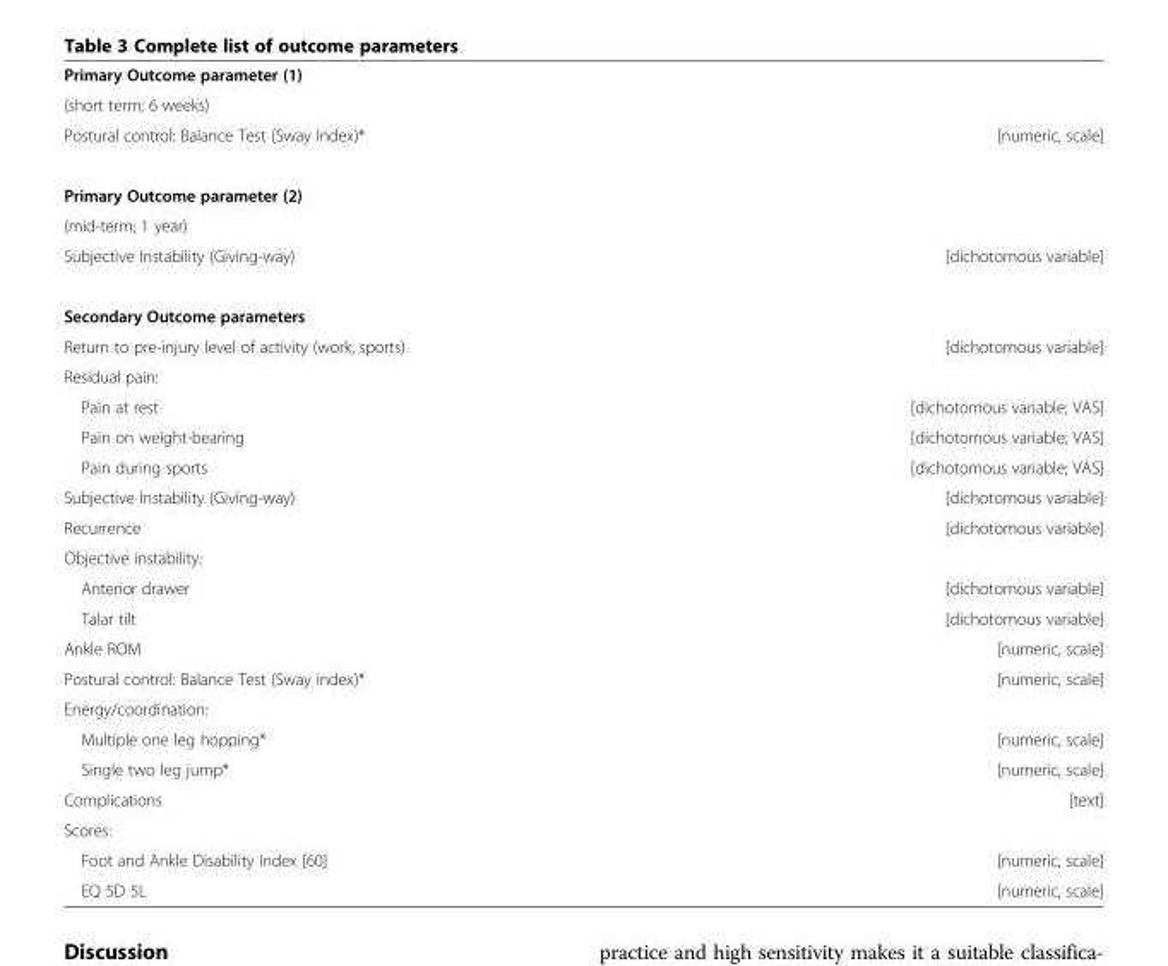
<table><tbody><tr><td colspan="2">Primary Outcome parameter (1)</td></tr><tr><td colspan="2">(short term; 6 weeks)</td></tr><tr><td>Postural control: Balance Test (Sway Index)*</td><td>[numeric, scale]</td></tr><tr><td colspan="2">Primary Outcome parameter (2)</td></tr><tr><td colspan="2">(mid-term; 1 year)</td></tr><tr><td>Subjective Instability (Giving-way)</td><td>[dichotomous variable]</td></tr><tr><td colspan="2">Secondary Outcome parameters</td></tr><tr><td>Return to pre-injury level of activity (work, sports)</td><td>[dichotomous variable]</td></tr><tr><td colspan="2">Residual pain:</td></tr><tr><td>Pain at rest</td><td>[dichotomous variable; VAS]</td></tr><tr><td>Pain on weight-bearing</td><td>[dichotomous variable; VAS]</td></tr><tr><td>Pain during sports</td><td>[dichotomous variable; VAS]</td></tr><tr><td>Subjective Instability (Giving-way)</td><td>[dichotomous variable]</td></tr><tr><td>Recurrence</td><td>[dichotomous variable]</td></tr><tr><td colspan="2">Objective instability:</td></tr><tr><td>Anterior drawer</td><td>[dichotomous variable]</td></tr><tr><td>Talar tilt</td><td>[dichotomous variable]</td></tr><tr><td>Ankle ROM</td><td>[numeric, scale]</td></tr><tr><td>Postural control: Balance Test (Sway index)*</td><td>[numeric, scale]</td></tr><tr><td colspan="2">Energy/coordination:</td></tr><tr><td>Multiple one leg hopping*</td><td>[numeric, scale]</td></tr><tr><td>Single two leg jump*</td><td>[numeric, scale]</td></tr><tr><td>Complications</td><td>[text]</td></tr><tr><td colspan="2">Scores:</td></tr><tr><td>Foot and Ankle Disability Index [60]</td><td>[numeric, scale]</td></tr><tr><td>EQ 5D 5L</td><td>[numeric, scale]</td></tr></tbody></table>